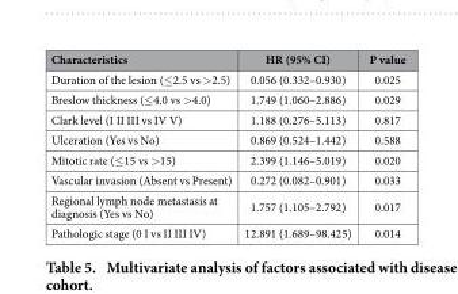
<table><thead><tr><td>Characteristics</td><td>HR (95% CI)</td><td>P value</td></tr></thead><tbody><tr><td>Duration of the lesion (≤ 2.5 vs &gt; 2.5)</td><td>0.056 (0.332–0.930)</td><td>0.025</td></tr><tr><td>Breslow thickness (≤ 4.0 vs &gt; 4.0)</td><td>1.749 (1.060–2.886)</td><td>0.029</td></tr><tr><td>Clark level (I II III vs IV V)</td><td>1.188 (0.276–5.113)</td><td>0.817</td></tr><tr><td>Ulceration (Yes vs No)</td><td>0.869 (0.524–1.442)</td><td>0.588</td></tr><tr><td>Mitotic rate (≤ 15 vs &gt; 15)</td><td>2.399 (1.146–5.019)</td><td>0.020</td></tr><tr><td>Vascular invasion (Absent vs Present)</td><td>0.272 (0.082–0.901)</td><td>0.033</td></tr><tr><td>Regional lymph node metastasis at diagnosis (Yes vs No)</td><td>1.757 (1.105–2.792)</td><td>0.017</td></tr><tr><td>Pathologic stage (0 I vs II III IV)</td><td>12.891 (1.689–98.425)</td><td>0.014</td></tr></tbody></table>